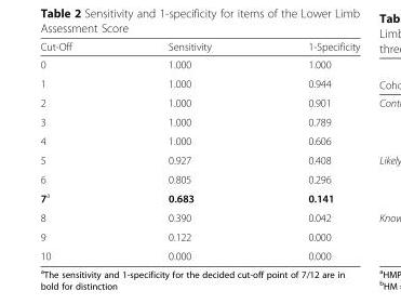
<table><thead><tr><td>Cut-Off</td><td>Sensitivity</td><td>1-Specificity</td></tr></thead><tbody><tr><td>0</td><td>1.000</td><td>1.000</td></tr><tr><td>1</td><td>1.000</td><td>0.944</td></tr><tr><td>2</td><td>1.000</td><td>0.901</td></tr><tr><td>3</td><td>1.000</td><td>0.789</td></tr><tr><td>4</td><td>1.000</td><td>0.606</td></tr><tr><td>5</td><td>0.927</td><td>0.408</td></tr><tr><td>6</td><td>0.805</td><td>0.296</td></tr><tr><td>7<sup>a</sup></td><td>0.683</td><td>0.141</td></tr><tr><td>8</td><td>0.390</td><td>0.042</td></tr><tr><td>9</td><td>0.122</td><td>0.000</td></tr><tr><td>10</td><td>0.000</td><td>0.000</td></tr></tbody></table>